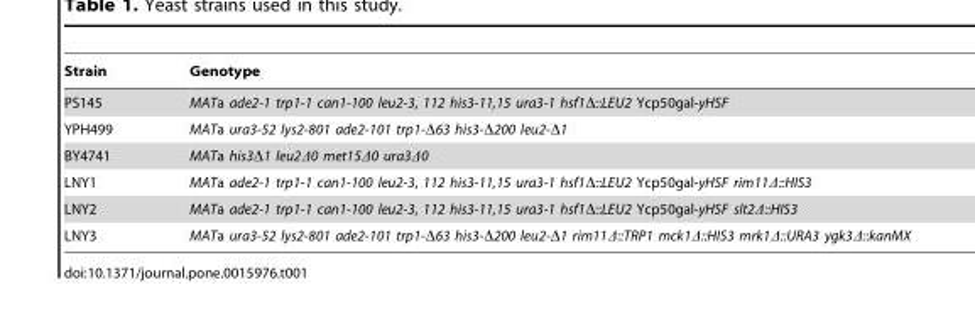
<table><thead><tr><td>Strain</td><td>Genotype</td></tr></thead><tbody><tr><td>PS145</td><td>MATa ade2-1 trp1-1 can1-100 leu2-3, 112 his3-11,15 ura3-1 hsf1Δ::LEU2 Ycp50gal-yHSF</td></tr><tr><td>YPH499</td><td>MATa ura3-52 lys2-801 ade2-101 trp1-Δ63 his3-Δ200 leu2-Δ1</td></tr><tr><td>BY4741</td><td>MATa his3Δ1 leu2Δ0 met15Δ0 ura3Δ0</td></tr><tr><td>LNY1</td><td>MATa ade2-1 trp1-1 can1-100 leu2-3, 112 his3-11,15 ura3-1 hsf1Δ::LEU2 Ycp50gal-yHSF rim11Δ::HIS3</td></tr><tr><td>LNY2</td><td>MATa ade2-1 trp1-1 can1-100 leu2-3, 112 his3-11,15 ura3-1 hsf1Δ::LEU2 Ycp50gal-yHSF slt2Δ::HIS3</td></tr><tr><td>LNY3</td><td>MATa ura3-52 lys2-801 ade2-101 trp1-Δ63 his3-Δ200 leu2-Δ1 rim11Δ::TRP1 mck1Δ::HIS3 mrk1Δ::URA3 ygk3Δ::kanMX</td></tr></tbody></table>